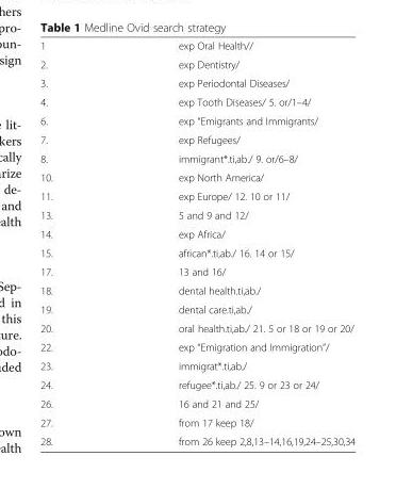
<table><tbody><tr><td>1</td><td>exp Oral Health//</td></tr><tr><td>2.</td><td>exp Dentistry/</td></tr><tr><td>3.</td><td>exp Periodontal Diseases/</td></tr><tr><td>4.</td><td>exp Tooth Diseases/ 5. or/1–4/</td></tr><tr><td>6.</td><td>exp “Emigrants and Immigrants/</td></tr><tr><td>7.</td><td>exp Refugees/</td></tr><tr><td>8.</td><td>immigrant*.ti,ab./ 9. or/6–8/</td></tr><tr><td>10.</td><td>exp North America/</td></tr><tr><td>11.</td><td>exp Europe/ 12. 10 or 11/</td></tr><tr><td>13.</td><td>5 and 9 and 12/</td></tr><tr><td>14.</td><td>exp Africa/</td></tr><tr><td>15.</td><td>african*.ti,ab./ 16. 14 or 15/</td></tr><tr><td>17.</td><td>13 and 16/</td></tr><tr><td>18.</td><td>dental health.ti,ab./</td></tr><tr><td>19.</td><td>dental care.ti,ab./</td></tr><tr><td>20.</td><td>oral health.ti,ab./ 21. 5 or 18 or 19 or 20/</td></tr><tr><td>22.</td><td>exp “Emigration and Immigration”/</td></tr><tr><td>23.</td><td>immigrat*.ti,ab./</td></tr><tr><td>24.</td><td>refugee*.ti,ab./ 25. 9 or 23 or 24/</td></tr><tr><td>26.</td><td>16 and 21 and 25/</td></tr><tr><td>27.</td><td>from 17 keep 18/</td></tr><tr><td>28.</td><td>from 26 keep 2,8,13–14,16,19,24–25,30,34</td></tr></tbody></table>